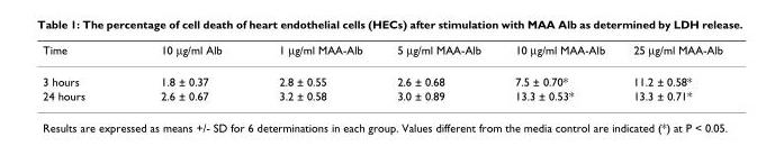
<table><thead><tr><td>Time</td><td>10 µg/ml Alb</td><td>1 µg/ml MAA-Alb</td><td>5 µg/ml MAA-Alb</td><td>10 µg/ml MAA-Alb</td><td>25 µg/ml MAA-Alb</td></tr></thead><tbody><tr><td>3 hours</td><td>1.8 ± 0.37</td><td>2.8 ± 0.55</td><td>2.6 ± 0.68</td><td>7.5 ± 0.70*</td><td>11.2 ± 0.58*</td></tr><tr><td>24 hours</td><td>2.6 ± 0.67</td><td>3.2 ± 0.58</td><td>3.0 ± 0.89</td><td>13.3 ± 0.53*</td><td>13.3 ± 0.71*</td></tr></tbody></table>